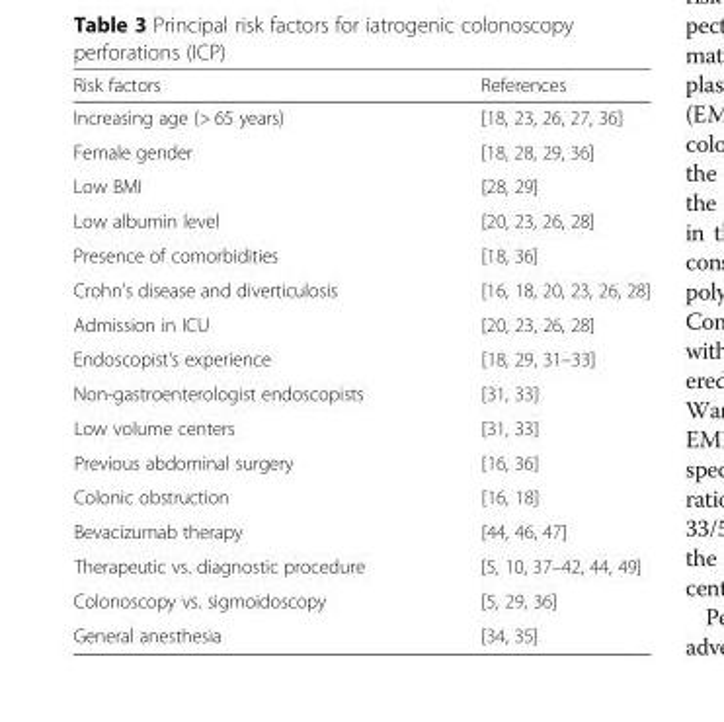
<table><thead><tr><td>Risk factors</td><td>References</td></tr></thead><tbody><tr><td>Increasing age (&gt; 65 years)</td><td>[18, 23, 26, 27, 36]</td></tr><tr><td>Female gender</td><td>[18, 28, 29, 36]</td></tr><tr><td>Low BMI</td><td>[28, 29]</td></tr><tr><td>Low albumin level</td><td>[20, 23, 26, 28]</td></tr><tr><td>Presence of comorbidities</td><td>[18, 36]</td></tr><tr><td>Crohn’s disease and diverticulosis</td><td>[16, 18, 20, 23, 26, 28]</td></tr><tr><td>Admission in ICU</td><td>[20, 23, 26, 28]</td></tr><tr><td>Endoscopist’s experience</td><td>[18, 29, 31–33]</td></tr><tr><td>Non-gastroenterologist endoscopists</td><td>[31, 33]</td></tr><tr><td>Low volume centers</td><td>[31, 33]</td></tr><tr><td>Previous abdominal surgery</td><td>[16, 36]</td></tr><tr><td>Colonic obstruction</td><td>[16, 18]</td></tr><tr><td>Bevacizumab therapy</td><td>[44, 46, 47]</td></tr><tr><td>Therapeutic vs. diagnostic procedure</td><td>[5, 10, 37–42, 44, 49]</td></tr><tr><td>Colonoscopy vs. sigmoidoscopy</td><td>[5, 29, 36]</td></tr><tr><td>General anesthesia</td><td>[34, 35]</td></tr></tbody></table>